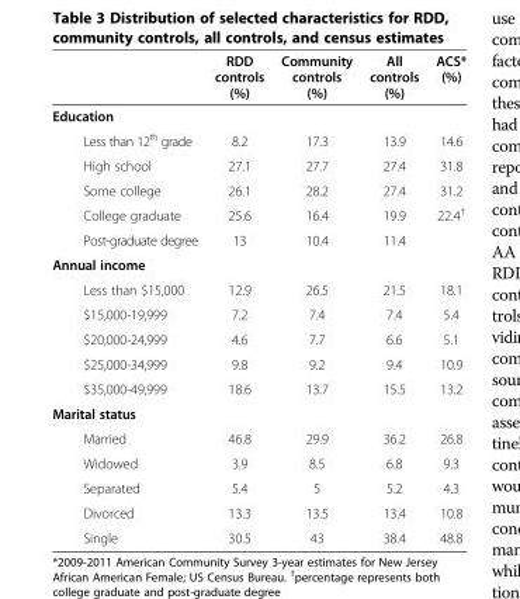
<table><thead><tr><td></td><td>RDD controls (%)</td><td>Community controls (%)</td><td>All controls (%)</td><td>ACS* (%)</td></tr></thead><tbody><tr><td colspan="5">Education</td></tr><tr><td>Less than 12<sup>th</sup> grade</td><td>8.2</td><td>17.3</td><td>13.9</td><td>14.6</td></tr><tr><td>High school</td><td>27.1</td><td>27.7</td><td>27.4</td><td>31.8</td></tr><tr><td>Some college</td><td>26.1</td><td>28.2</td><td>27.4</td><td>31.2</td></tr><tr><td>College graduate</td><td>25.6</td><td>16.4</td><td>19.9</td><td rowspan="2">22.4<sup>†</sup></td></tr><tr><td>Post-graduate degree</td><td>13</td><td>10.4</td><td>11.4</td></tr><tr><td colspan="5">Annual income</td></tr><tr><td>Less than $15,000</td><td>12.9</td><td>26.5</td><td>21.5</td><td>18.1</td></tr><tr><td>$15,000-19,999</td><td>7.2</td><td>7.4</td><td>7.4</td><td>5.4</td></tr><tr><td>$20,000-24,999</td><td>4.6</td><td>7.7</td><td>6.6</td><td>5.1</td></tr><tr><td>$25,000-34,999</td><td>9.8</td><td>9.2</td><td>9.4</td><td>10.9</td></tr><tr><td>$35,000-49,999</td><td>18.6</td><td>13.7</td><td>15.5</td><td>13.2</td></tr><tr><td colspan="5">Marital status</td></tr><tr><td>Married</td><td>46.8</td><td>29.9</td><td>36.2</td><td>26.8</td></tr><tr><td>Widowed</td><td>3.9</td><td>8.5</td><td>6.8</td><td>9.3</td></tr><tr><td>Separated</td><td>5.4</td><td>5</td><td>5.2</td><td>4.3</td></tr><tr><td>Divorced</td><td>13.3</td><td>13.5</td><td>13.4</td><td>10.8</td></tr><tr><td>Single</td><td>30.5</td><td>43</td><td>38.4</td><td>48.8</td></tr></tbody></table>